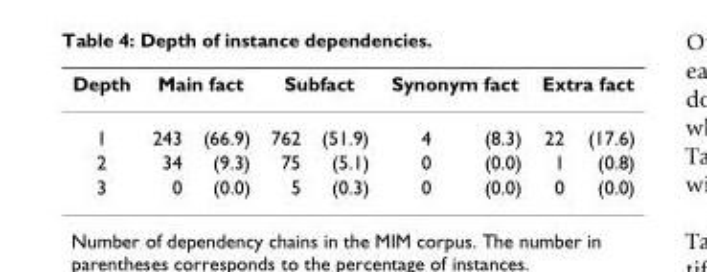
<table><thead><tr><td rowspan="2">Depth 1</td><td colspan="2">Main fact</td><td colspan="2">Subfact</td><td colspan="2">Synonym fact</td><td colspan="2">Extra fact</td></tr><tr><td>243</td><td>(66.9)</td><td>762</td><td>(51.9)</td><td>4</td><td>(8.3)</td><td>22</td><td>(17.6)</td></tr></thead><tbody><tr><td>2</td><td>34</td><td>(9.3)</td><td>75</td><td>(5.1)</td><td>0</td><td>(0.0)</td><td>1</td><td>(0.8)</td></tr><tr><td>3</td><td>0</td><td>(0.0)</td><td>5</td><td>(0.3)</td><td>0</td><td>(0.0)</td><td>0</td><td>(0.0)</td></tr></tbody></table>